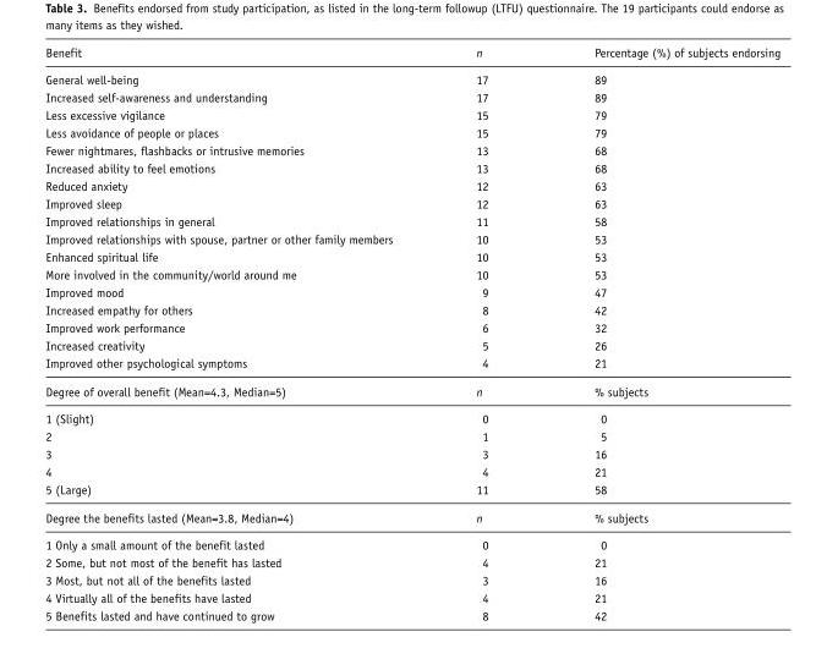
<table><thead><tr><td>Benefit</td><td>n</td><td>Percentage (%) of subjects endorsing</td></tr></thead><tbody><tr><td>General well-being</td><td>17</td><td>89</td></tr><tr><td>Increased self-awareness and understanding</td><td>17</td><td>89</td></tr><tr><td>Less excessive vigilance</td><td>15</td><td>79</td></tr><tr><td>Less avoidance of people or places</td><td>15</td><td>79</td></tr><tr><td>Fewer nightmares, flashbacks or intrusive memories</td><td>13</td><td>68</td></tr><tr><td>Increased ability to feel emotions</td><td>13</td><td>68</td></tr><tr><td>Reduced anxiety</td><td>12</td><td>63</td></tr><tr><td>Improved sleep</td><td>12</td><td>63</td></tr><tr><td>Improved relationships in general</td><td>11</td><td>58</td></tr><tr><td>Improved relationships with spouse, partner or other family members</td><td>10</td><td>53</td></tr><tr><td>Enhanced spiritual life</td><td>10</td><td>53</td></tr><tr><td>More involved in the community/world around me</td><td>10</td><td>53</td></tr><tr><td>Improved mood</td><td>9</td><td>47</td></tr><tr><td>Increased empathy for others</td><td>8</td><td>42</td></tr><tr><td>Improved work performance</td><td>6</td><td>32</td></tr><tr><td>Increased creativity</td><td>5</td><td>26</td></tr><tr><td>Improved other psychological symptoms</td><td>4</td><td>21</td></tr><tr><td>Degree of overall benefit (Mean=4.3, Median=5)</td><td>n</td><td>% subjects</td></tr><tr><td>1 (Slight)</td><td>0</td><td>0</td></tr><tr><td>2</td><td>1</td><td>5</td></tr><tr><td>3</td><td>3</td><td>16</td></tr><tr><td>4</td><td>4</td><td>21</td></tr><tr><td>5 (Large)</td><td>11</td><td>58</td></tr><tr><td>Degree the benefits lasted (Mean=3.8, Median=4)</td><td>n</td><td>% subjects</td></tr><tr><td>1 Only a small amount of the benefit lasted</td><td>0</td><td>0</td></tr><tr><td>2 Some, but not most of the benefit has lasted</td><td>4</td><td>21</td></tr><tr><td>3 Most, but not all of the benefits lasted</td><td>3</td><td>16</td></tr><tr><td>4 Virtually all of the benefits have lasted</td><td>4</td><td>21</td></tr><tr><td>5 Benefits lasted and have continued to grow</td><td>8</td><td>42</td></tr></tbody></table>